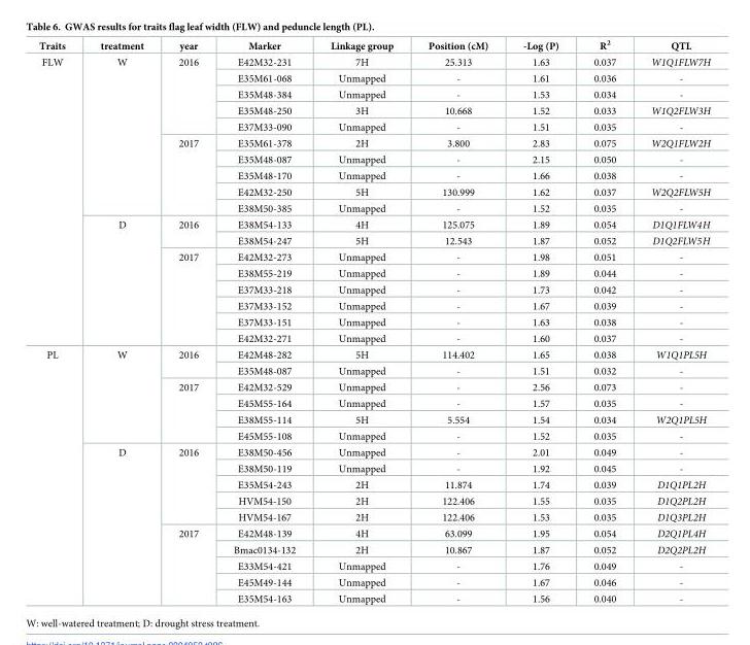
<table><thead><tr><td>Traits</td><td>treatment</td><td>year</td><td>Marker</td><td>Linkage group</td><td>Position (cM)</td><td>-Log (P)</td><td>R<sup>2</sup></td><td>QTL</td></tr></thead><tbody><tr><td rowspan="18">FLW</td><td rowspan="10">W</td><td rowspan="5">2016</td><td>E42M32-231</td><td>7H</td><td>25.313</td><td>1.63</td><td>0.037</td><td>W1Q1FLW7H</td></tr><tr><td>E35M61-068</td><td>Unmapped</td><td>-</td><td>1.61</td><td>0.036</td><td>-</td></tr><tr><td>E35M48-384</td><td>Unmapped</td><td>-</td><td>1.53</td><td>0.034</td><td>-</td></tr><tr><td>E35M48-250</td><td>3H</td><td>10.668</td><td>1.52</td><td>0.033</td><td>W1Q2FLW3H</td></tr><tr><td>E37M33-090</td><td>Unmapped</td><td>-</td><td>1.51</td><td>0.035</td><td>-</td></tr><tr><td rowspan="5">2017</td><td>E35M61-378</td><td>2H</td><td>3.800</td><td>2.83</td><td>0.075</td><td>W2Q1FLW2H</td></tr><tr><td>E35M48-087</td><td>Unmapped</td><td>-</td><td>2.15</td><td>0.050</td><td>-</td></tr><tr><td>E35M48-170</td><td>Unmapped</td><td>-</td><td>1.66</td><td>0.038</td><td>-</td></tr><tr><td>E42M32-250</td><td>5H</td><td>130.999</td><td>1.62</td><td>0.037</td><td>W2Q2FLW5H</td></tr><tr><td>E38M50-385</td><td>Unmapped</td><td>-</td><td>1.52</td><td>0.035</td><td>-</td></tr><tr><td rowspan="8">D</td><td rowspan="2">2016</td><td>E38M54-133</td><td>4H</td><td>125.075</td><td>1.89</td><td>0.054</td><td>D1Q1FLW4H</td></tr><tr><td>E38M54-247</td><td>5H</td><td>12.543</td><td>1.87</td><td>0.052</td><td>D1Q2FLW5H</td></tr><tr><td rowspan="6">2017</td><td>E42M32-273</td><td>Unmapped</td><td>-</td><td>1.98</td><td>0.051</td><td>-</td></tr><tr><td>E38M55-219</td><td>Unmapped</td><td>-</td><td>1.89</td><td>0.044</td><td>-</td></tr><tr><td>E37M33-218</td><td>Unmapped</td><td>-</td><td>1.73</td><td>0.042</td><td>-</td></tr><tr><td>E37M33-152</td><td>Unmapped</td><td>-</td><td>1.67</td><td>0.039</td><td>-</td></tr><tr><td>E37M33-151</td><td>Unmapped</td><td>-</td><td>1.63</td><td>0.038</td><td>-</td></tr><tr><td>E42M32-271</td><td>Unmapped</td><td>-</td><td>1.60</td><td>0.037</td><td>-</td></tr><tr><td rowspan="16">PL</td><td rowspan="6">W</td><td rowspan="2">2016</td><td>E42M48-282</td><td>5H</td><td>114.402</td><td>1.65</td><td>0.038</td><td>W1Q1PL5H</td></tr><tr><td>E35M48-087</td><td>Unmapped</td><td>-</td><td>1.51</td><td>0.032</td><td>-</td></tr><tr><td rowspan="4">2017</td><td>E42M32-529</td><td>Unmapped</td><td>-</td><td>2.56</td><td>0.073</td><td>-</td></tr><tr><td>E45M55-164</td><td>Unmapped</td><td>-</td><td>1.57</td><td>0.035</td><td>-</td></tr><tr><td>E38M55-114</td><td>5H</td><td>5.554</td><td>1.54</td><td>0.034</td><td>W2Q1PL5H</td></tr><tr><td>E45M55-108</td><td>Unmapped</td><td>-</td><td>1.52</td><td>0.035</td><td>-</td></tr><tr><td rowspan="10">D</td><td rowspan="5">2016</td><td>E38M50-456</td><td>Unmapped</td><td>-</td><td>2.01</td><td>0.049</td><td>-</td></tr><tr><td>E38M50-119</td><td>Unmapped</td><td>-</td><td>1.92</td><td>0.045</td><td>-</td></tr><tr><td>E35M54-243</td><td>2H</td><td>11.874</td><td>1.74</td><td>0.039</td><td>D1Q1PL2H</td></tr><tr><td>HVM54-150</td><td>2H</td><td>122.406</td><td>1.55</td><td>0.035</td><td>D1Q2PL2H</td></tr><tr><td>HVM54-167</td><td>2H</td><td>122.406</td><td>1.53</td><td>0.035</td><td>D1Q3PL2H</td></tr><tr><td rowspan="5">2017</td><td>E42M48-139</td><td>4H</td><td>63.099</td><td>1.95</td><td>0.054</td><td>D2Q1PL4H</td></tr><tr><td>Bmac0134-132</td><td>2H</td><td>10.867</td><td>1.87</td><td>0.052</td><td>D2Q2PL2H</td></tr><tr><td>E33M54-421</td><td>Unmapped</td><td>-</td><td>1.76</td><td>0.049</td><td>-</td></tr><tr><td>E45M49-144</td><td>Unmapped</td><td>-</td><td>1.67</td><td>0.046</td><td>-</td></tr><tr><td>E35M54-163</td><td>Unmapped</td><td>-</td><td>1.56</td><td>0.040</td><td>-</td></tr></tbody></table>